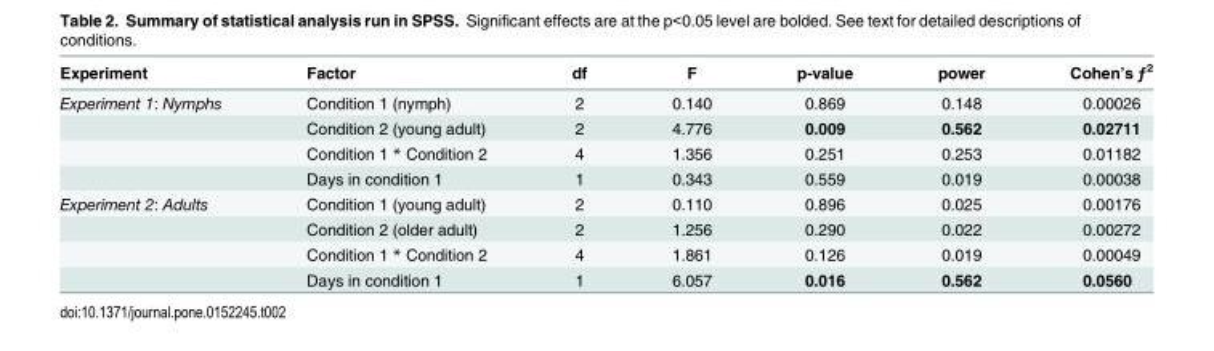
<table><thead><tr><td>Experiment</td><td>Factor</td><td>df</td><td>F</td><td>p-value</td><td>power</td><td>Cohen’s ƒ<sup>2</sup></td></tr></thead><tbody><tr><td rowspan="4">Experiment 1: Nymphs</td><td>Condition 1 (nymph)</td><td>2</td><td>0.140</td><td>0.869</td><td>0.148</td><td>0.00026</td></tr><tr><td>Condition 2 (young adult)</td><td>2</td><td>4.776</td><td>0.009</td><td>0.562</td><td>0.02711</td></tr><tr><td>Condition 1 * Condition 2</td><td>4</td><td>1.356</td><td>0.251</td><td>0.253</td><td>0.01182</td></tr><tr><td>Days in condition 1</td><td>1</td><td>0.343</td><td>0.559</td><td>0.019</td><td>0.00038</td></tr><tr><td rowspan="4">Experiment 2: Adults</td><td>Condition 1 (young adult)</td><td>2</td><td>0.110</td><td>0.896</td><td>0.025</td><td>0.00176</td></tr><tr><td>Condition 2 (older adult)</td><td>2</td><td>1.256</td><td>0.290</td><td>0.022</td><td>0.00272</td></tr><tr><td>Condition 1 * Condition 2</td><td>4</td><td>1.861</td><td>0.126</td><td>0.019</td><td>0.00049</td></tr><tr><td>Days in condition 1</td><td>1</td><td>6.057</td><td>0.016</td><td>0.562</td><td>0.0560</td></tr></tbody></table>